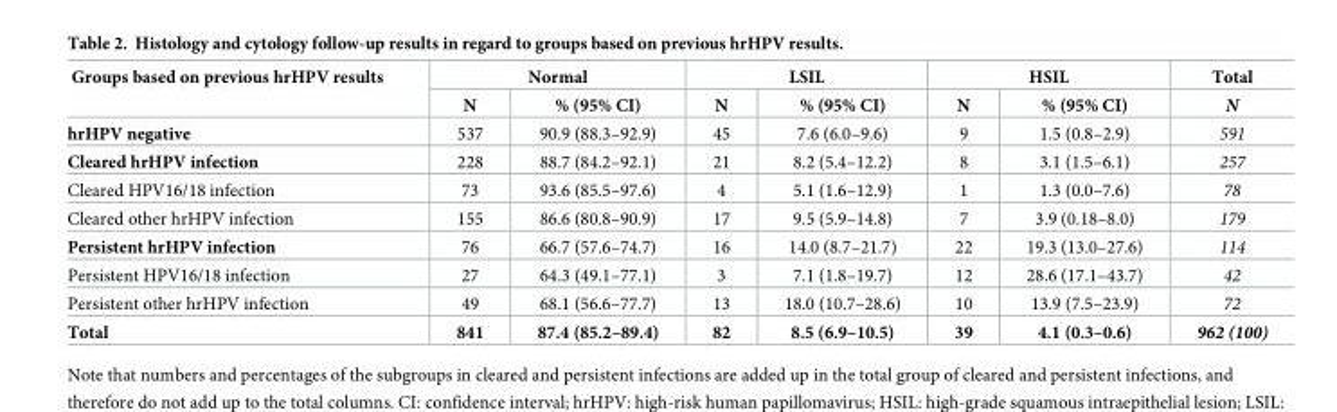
<table><thead><tr><td rowspan="2">Groups based on previous hrHPV results</td><td colspan="2">Normal</td><td colspan="2">LSIL</td><td colspan="2">HSIL</td><td rowspan="2">Total N</td></tr><tr><td>N</td><td>% (95% CI)</td><td>N</td><td>% (95% CI)</td><td>N</td><td>% (95% CI)</td></tr></thead><tbody><tr><td>hrHPV negative</td><td>537</td><td>90.9 (88.3–92.9)</td><td>45</td><td>7.6 (6.0–9.6)</td><td>9</td><td>1.5 (0.8–2.9)</td><td>591</td></tr><tr><td>Cleared hrHPV infection</td><td>228</td><td>88.7 (84.2–92.1)</td><td>21</td><td>8.2 (5.4–12.2)</td><td>8</td><td>3.1 (1.5–6.1)</td><td>257</td></tr><tr><td>Cleared HPV16/18 infection</td><td>73</td><td>93.6 (85.5–97.6)</td><td>4</td><td>5.1 (1.6–12.9)</td><td>1</td><td>1.3 (0.0–7.6)</td><td>78</td></tr><tr><td>Cleared other hrHPV infection</td><td>155</td><td>86.6 (80.8–90.9)</td><td>17</td><td>9.5 (5.9–14.8)</td><td>7</td><td>3.9 (0.18–8.0)</td><td>179</td></tr><tr><td>Persistent hrHPV infection</td><td>76</td><td>66.7 (57.6–74.7)</td><td>16</td><td>14.0 (8.7–21.7)</td><td>22</td><td>19.3 (13.0–27.6)</td><td>114</td></tr><tr><td>Persistent HPV16/18 infection</td><td>27</td><td>64.3 (49.1–77.1)</td><td>3</td><td>7.1 (1.8–19.7)</td><td>12</td><td>28.6 (17.1–43.7)</td><td>42</td></tr><tr><td>Persistent other hrHPV infection</td><td>49</td><td>68.1 (56.6–77.7)</td><td>13</td><td>18.0 (10.7–28.6)</td><td>10</td><td>13.9 (7.5–23.9)</td><td>72</td></tr><tr><td>Total</td><td>841</td><td>87.4 (85.2–89.4)</td><td>82</td><td>8.5 (6.9–10.5)</td><td>39</td><td>4.1 (0.3–0.6)</td><td>962 (100)</td></tr></tbody></table>